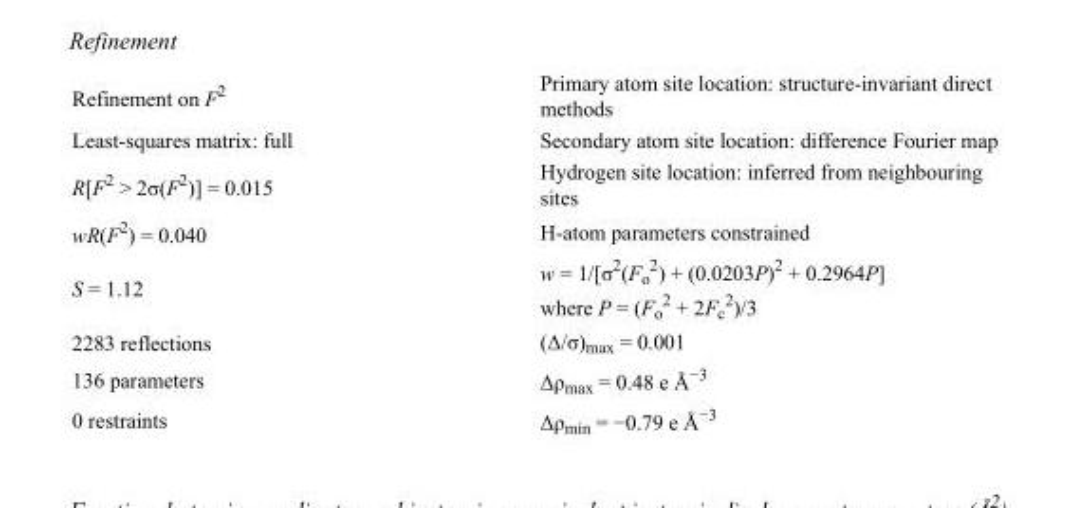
<table><tbody><tr><td>Refinement on F<sup>2</sup></td><td>Primary atom site location: structure-invariant direct methods</td></tr><tr><td>Least-squares matrix: full</td><td>Secondary atom site location: difference Fourier map</td></tr><tr><td>R[F<sup>2</sup> &gt; 2σ(F<sup>2</sup>)] = 0.015</td><td>Hydrogen site location: inferred from neighbouring sites</td></tr><tr><td>wR(F<sup>2</sup>) = 0.040</td><td>H-atom parameters constrained</td></tr><tr><td>S = 1.12</td><td>w = 1/[σ<sup>2</sup>(F<sub>o</sub> <sup>2</sup>) + (0.0203P)<sup>2</sup> + 0.2964P] where P = (F<sub>o</sub> <sup>2</sup> + 2F<sub>c</sub> <sup>2</sup>)/3</td></tr><tr><td>2283 reflections</td><td>(Δ/σ)<sub>max</sub> = 0.001</td></tr><tr><td>136 parameters</td><td>Δρ<sub>max</sub> = 0.48 e Å<sup>−3</sup></td></tr><tr><td>0 restraints</td><td>Δρ<sub>min</sub> = −0.79 e Å<sup>−3</sup></td></tr></tbody></table>